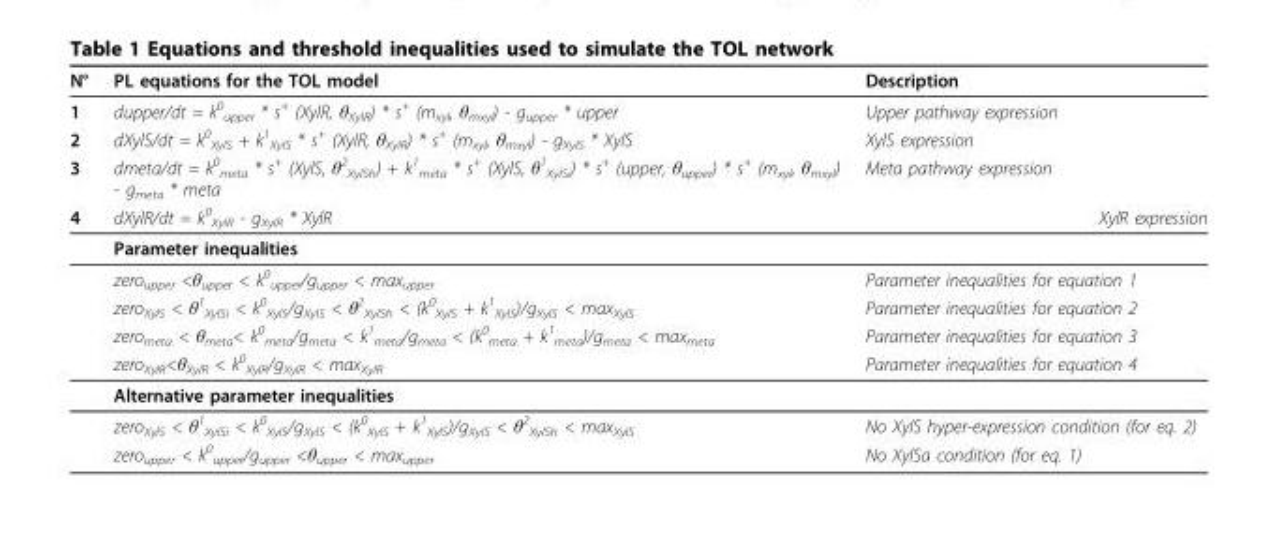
<table><thead><tr><td>N°</td><td>PL equations for the TOL model</td><td>Description</td></tr></thead><tbody><tr><td>1</td><td>dupper/dt = k<sup>0</sup> <sub>upper</sub> * s<sup>+</sup> (XylR, θ<sub>XylR</sub>) * s<sup>+</sup> (m<sub>xyl</sub>, θ<sub>mxyl</sub>) - g<sub>upper</sub> * upper</td><td>Upper pathway expression</td></tr><tr><td>2</td><td>dXylS/dt = k<sup>0</sup> <sub>XylS</sub> + k<sup>1</sup> <sub>XylS</sub> * s<sup>+</sup> (XylR, θ<sub>XylR</sub>) * s<sup>+</sup> (m<sub>xyl</sub>, θ<sub>mxyl</sub>) - g<sub>XylS</sub> * XylS</td><td>XylS expression</td></tr><tr><td>3</td><td>dmeta/dt = k<sup>0</sup> <sub>meta</sub> * s<sup>+</sup> (XylS, θ<sup>2</sup> <sub>XylSh</sub>) + k<sup>1</sup> <sub>meta</sub> * s<sup>+</sup> (XylS, θ<sup>1</sup> <sub>XylSi</sub>) * s<sup>+</sup> (upper, θ<sub>upper</sub>) * s<sup>+</sup> (m<sub>xyl</sub>, θ<sub>mxyl</sub>) - g<sub>meta</sub> * meta</td><td>Meta pathway expression</td></tr><tr><td rowspan="9">4</td><td>dXylR/dt = k<sup>0</sup> <sub>XylR</sub> - g<sub>XylR</sub> * XylR</td><td>XylR expression</td></tr><tr><td>Parameter inequalities</td><td></td></tr><tr><td>zero<sub>upper</sub> &lt;θ<sub>upper</sub> &lt; k<sup>0</sup> <sub>upper</sub>/g<sub>upper</sub> &lt; max<sub>upper</sub></td><td>Parameter inequalities for equation 1</td></tr><tr><td>zero<sub>XylS</sub> &lt; θ<sup>1</sup> <sub>XylSi</sub> &lt; k<sup>0</sup> <sub>XylS</sub>/g<sub>XylS</sub> &lt; θ<sup>2</sup> <sub>XylSh</sub> &lt; (k<sup>0</sup> <sub>XylS</sub> + k<sup>1</sup> <sub>XylS</sub>)/g<sub>XylS</sub> &lt; max<sub>XylS</sub></td><td>Parameter inequalities for equation 2</td></tr><tr><td>zero<sub>meta</sub> &lt; θ<sub>meta</sub>&lt; k<sup>0</sup> <sub>meta</sub>/g<sub>meta</sub> &lt; k<sup>1</sup> <sub>meta</sub>/g<sub>meta</sub> &lt; (k<sup>0</sup> <sub>meta</sub> + k<sup>1</sup> <sub>meta</sub>)/g<sub>meta</sub> &lt; max<sub>meta</sub></td><td>Parameter inequalities for equation 3</td></tr><tr><td>zero<sub>XylR</sub>&lt;θ<sub>XylR</sub> &lt; k<sup>0</sup> <sub>XylR</sub>/g<sub>XylR</sub> &lt; max<sub>XylR</sub></td><td>Parameter inequalities for equation 4</td></tr><tr><td>Alternative parameter inequalities</td><td></td></tr><tr><td>zero<sub>XylS</sub> &lt; θ<sup>1</sup> <sub>XylSi</sub> &lt; k<sup>0</sup> <sub>XylS</sub>/g<sub>XylS</sub> &lt; (k<sup>0</sup> <sub>XylS</sub> + k<sup>1</sup> <sub>XylS</sub>)/g<sub>XylS</sub> &lt; θ<sup>2</sup> <sub>XylSh</sub> &lt; max<sub>XylS</sub></td><td>No XylS hyper-expression condition (for eq. 2)</td></tr><tr><td>zero<sub>upper</sub> &lt; k<sup>0</sup> <sub>upper</sub>/g<sub>upper</sub> &lt;θ<sub>upper</sub> &lt; max<sub>upper</sub></td><td>No XylSa condition (for eq. 1)</td></tr></tbody></table>